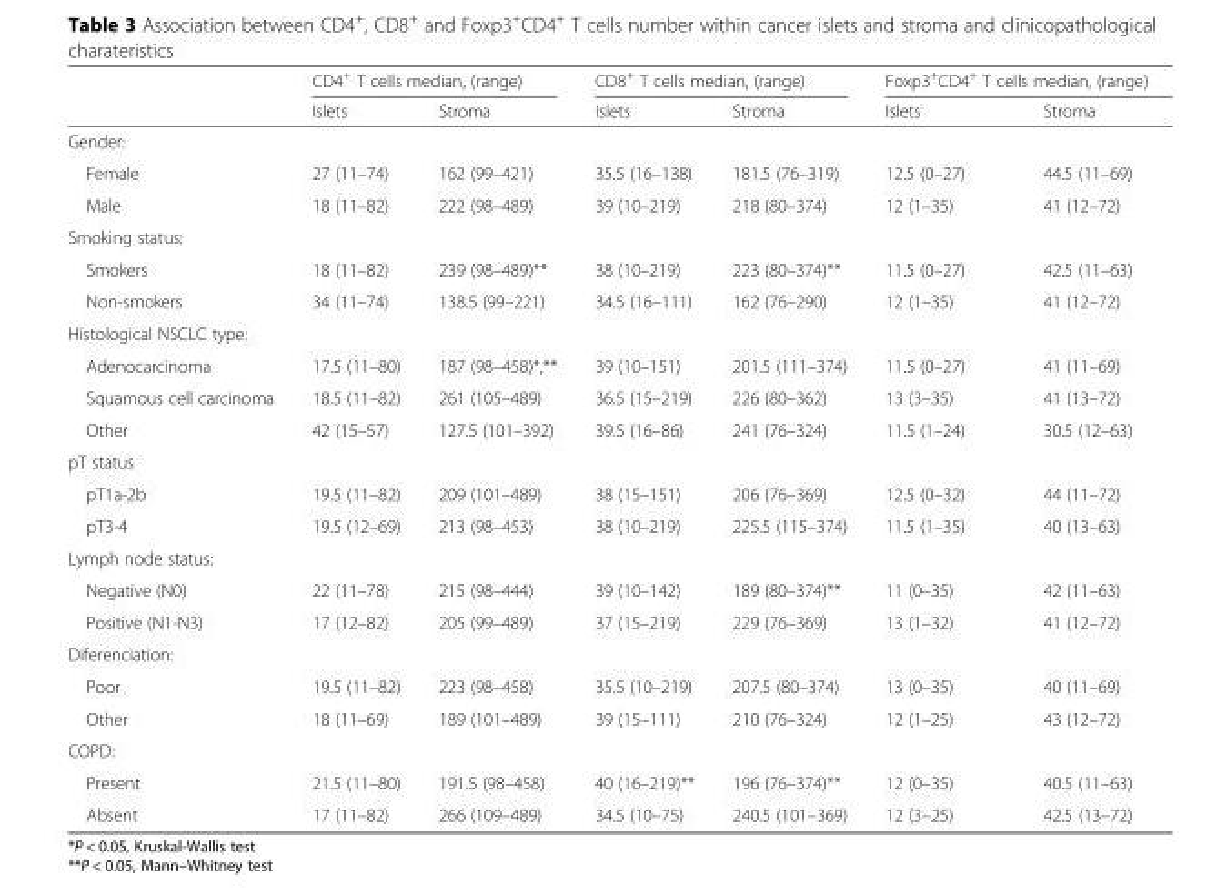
<table><thead><tr><td rowspan="2"></td><td colspan="2">CD4<sup>+</sup> T cells median, (range)</td><td colspan="2">CD8<sup>+</sup> T cells median, (range)</td><td colspan="2">Foxp3<sup>+</sup>CD4<sup>+</sup> T cells median, (range)</td></tr><tr><td>Islets</td><td>Stroma</td><td>Islets</td><td>Stroma</td><td>Islets</td><td>Stroma</td></tr></thead><tbody><tr><td colspan="7">Gender:</td></tr><tr><td>Female</td><td>27 (11–74)</td><td>162 (99–421)</td><td>35.5 (16–138)</td><td>181.5 (76–319)</td><td>12.5 (0–27)</td><td>44.5 (11–69)</td></tr><tr><td>Male</td><td>18 (11–82)</td><td>222 (98–489)</td><td>39 (10–219)</td><td>218 (80–374)</td><td>12 (1–35)</td><td>41 (12–72)</td></tr><tr><td colspan="7">Smoking status:</td></tr><tr><td>Smokers</td><td>18 (11–82)</td><td>239 (98–489)**</td><td>38 (10–219)</td><td>223 (80–374)**</td><td>11.5 (0–27)</td><td>42.5 (11–63)</td></tr><tr><td>Non-smokers</td><td>34 (11–74)</td><td>138.5 (99–221)</td><td>34.5 (16–111)</td><td>162 (76–290)</td><td>12 (1–35)</td><td>41 (12–72)</td></tr><tr><td colspan="7">Histological NSCLC type:</td></tr><tr><td>Adenocarcinoma</td><td>17.5 (11–80)</td><td>187 (98–458)*,**</td><td>39 (10–151)</td><td>201.5 (111–374)</td><td>11.5 (0–27)</td><td>41 (11–69)</td></tr><tr><td>Squamous cell carcinoma</td><td>18.5 (11–82)</td><td>261 (105–489)</td><td>36.5 (15–219)</td><td>226 (80–362)</td><td>13 (3–35)</td><td>41 (13–72)</td></tr><tr><td>Other</td><td>42 (15–57)</td><td>127.5 (101–392)</td><td>39.5 (16–86)</td><td>241 (76–324)</td><td>11.5 (1–24)</td><td>30.5 (12–63)</td></tr><tr><td colspan="7">pT status</td></tr><tr><td>pT1a-2b</td><td>19.5 (11–82)</td><td>209 (101–489)</td><td>38 (15–151)</td><td>206 (76–369)</td><td>12.5 (0–32)</td><td>44 (11–72)</td></tr><tr><td>pT3-4</td><td>19.5 (12–69)</td><td>213 (98–453)</td><td>38 (10–219)</td><td>225.5 (115–374)</td><td>11.5 (1–35)</td><td>40 (13–63)</td></tr><tr><td colspan="7">Lymph node status:</td></tr><tr><td>Negative (N0)</td><td>22 (11–78)</td><td>215 (98–444)</td><td>39 (10–142)</td><td>189 (80–374)**</td><td>11 (0–35)</td><td>42 (11–63)</td></tr><tr><td>Positive (N1-N3)</td><td>17 (12–82)</td><td>205 (99–489)</td><td>37 (15–219)</td><td>229 (76–369)</td><td>13 (1–32)</td><td>41 (12–72)</td></tr><tr><td colspan="7">Diferenciation:</td></tr><tr><td>Poor</td><td>19.5 (11–82)</td><td>223 (98–458)</td><td>35.5 (10–219)</td><td>207.5 (80–374)</td><td>13 (0–35)</td><td>40 (11–69)</td></tr><tr><td>Other</td><td>18 (11–69)</td><td>189 (101–489)</td><td>39 (15–111)</td><td>210 (76–324)</td><td>12 (1–25)</td><td>43 (12–72)</td></tr><tr><td colspan="7">COPD:</td></tr><tr><td>Present</td><td>21.5 (11–80)</td><td>191.5 (98–458)</td><td>40 (16–219)**</td><td>196 (76–374)**</td><td>12 (0–35)</td><td>40.5 (11–63)</td></tr><tr><td>Absent</td><td>17 (11–82)</td><td>266 (109–489)</td><td>34.5 (10–75)</td><td>240.5 (101–369)</td><td>12 (3–25)</td><td>42.5 (13–72)</td></tr></tbody></table>